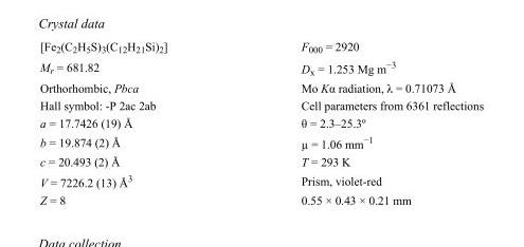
<table><tbody><tr><td>[Fe<sub>2</sub>(C<sub>2</sub>H<sub>5</sub>S)<sub>3</sub>(C<sub>12</sub>H<sub>21</sub>Si)<sub>2</sub>]</td><td>F000 = 2920</td></tr><tr><td>M<sub>r</sub> = 681.82</td><td>D<sub>x</sub> = 1.253 Mg m<sup>−3</sup></td></tr><tr><td>Orthorhombic, Pbca</td><td>Mo Kα radiation, λ = 0.71073 Å</td></tr><tr><td>Hall symbol: -P 2ac 2ab</td><td>Cell parameters from 6361 reflections</td></tr><tr><td>a = 17.7426 (19) Å</td><td>θ = 2.3–25.3º</td></tr><tr><td>b = 19.874 (2) Å</td><td>µ = 1.06 mm<sup>−1</sup></td></tr><tr><td>c = 20.493 (2) Å</td><td>T = 293 K</td></tr><tr><td>V = 7226.2 (13) Å<sup>3</sup></td><td>Prism, violet-red</td></tr><tr><td>Z = 8</td><td>0.55 × 0.43 × 0.21 mm</td></tr></tbody></table>